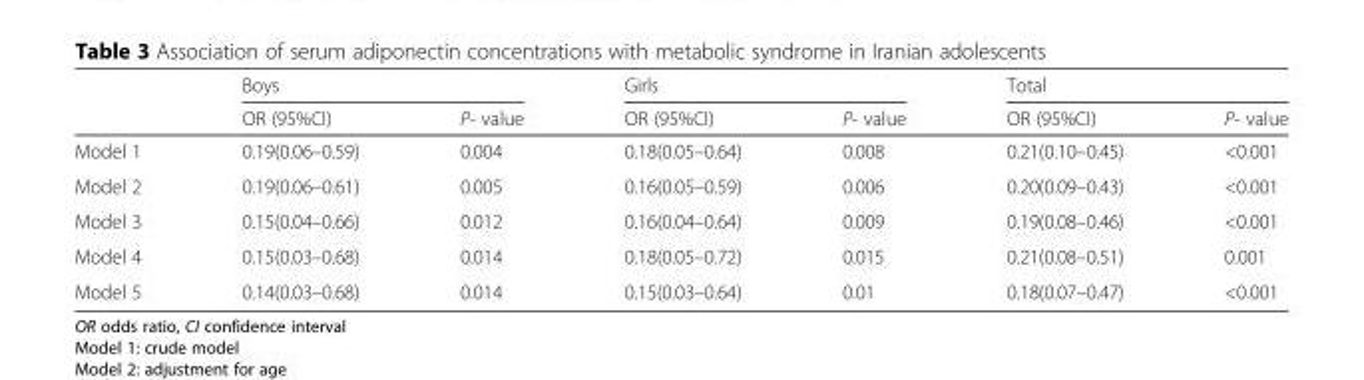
<table><thead><tr><td rowspan="2"></td><td colspan="2">Boys</td><td colspan="2">Girls</td><td colspan="2">Total</td></tr><tr><td>OR (95%CI)</td><td>P- value</td><td>OR (95%CI)</td><td>P- value</td><td>OR (95%CI)</td><td>P- value</td></tr></thead><tbody><tr><td>Model 1</td><td>0.19(0.06–0.59)</td><td>0.004</td><td>0.18(0.05–0.64)</td><td>0.008</td><td>0.21(0.10–0.45)</td><td>&lt;0.001</td></tr><tr><td>Model 2</td><td>0.19(0.06–0.61)</td><td>0.005</td><td>0.16(0.05–0.59)</td><td>0.006</td><td>0.20(0.09–0.43)</td><td>&lt;0.001</td></tr><tr><td>Model 3</td><td>0.15(0.04–0.66)</td><td>0.012</td><td>0.16(0.04–0.64)</td><td>0.009</td><td>0.19(0.08–0.46)</td><td>&lt;0.001</td></tr><tr><td>Model 4</td><td>0.15(0.03–0.68)</td><td>0.014</td><td>0.18(0.05–0.72)</td><td>0.015</td><td>0.21(0.08–0.51)</td><td>0.001</td></tr><tr><td>Model 5</td><td>0.14(0.03–0.68)</td><td>0.014</td><td>0.15(0.03–0.64)</td><td>0.01</td><td>0.18(0.07–0.47)</td><td>&lt;0.001</td></tr></tbody></table>